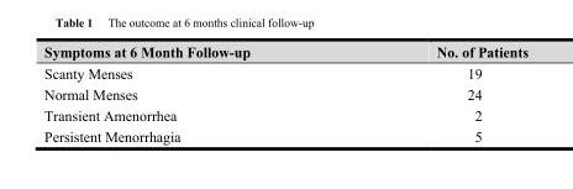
<table><thead><tr><td>Symptoms at 6 Month Follow-up</td><td>No. of Patients</td></tr></thead><tbody><tr><td>Scanty Menses</td><td>19</td></tr><tr><td>Normal Menses</td><td>24</td></tr><tr><td>Transient Amenorrhea</td><td>2</td></tr><tr><td>Persistent Menorrhagia</td><td>5</td></tr></tbody></table>